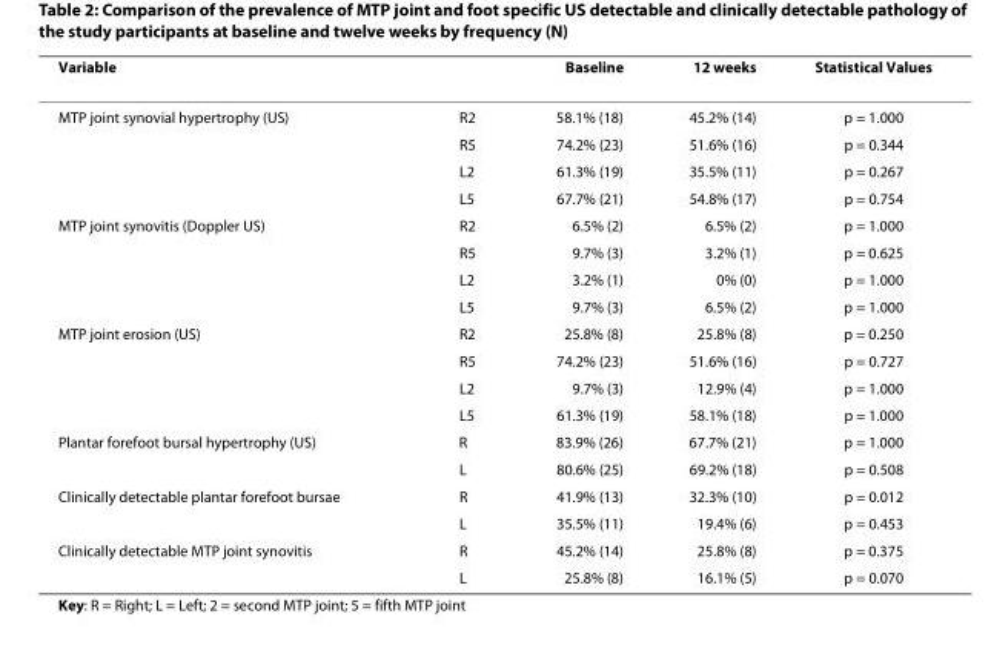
<table><thead><tr><td>Variable</td><td></td><td>Baseline</td><td>12 weeks</td><td>Statistical Values</td></tr></thead><tbody><tr><td rowspan="4">MTP joint synovial hypertrophy (US)</td><td>R2</td><td>58.1% (18)</td><td>45.2% (14)</td><td>p = 1.000</td></tr><tr><td>R5</td><td>74.2% (23)</td><td>51.6% (16)</td><td>p = 0.344</td></tr><tr><td>L2</td><td>61.3% (19)</td><td>35.5% (11)</td><td>p = 0.267</td></tr><tr><td>L5</td><td>67.7% (21)</td><td>54.8% (17)</td><td>p = 0.754</td></tr><tr><td rowspan="4">MTP joint synovitis (Doppler US)</td><td>R2</td><td>6.5% (2)</td><td>6.5% (2)</td><td>p = 1.000</td></tr><tr><td>R5</td><td>9.7% (3)</td><td>3.2% (1)</td><td>p = 0.625</td></tr><tr><td>L2</td><td>3.2% (1)</td><td>0% (0)</td><td>p = 1.000</td></tr><tr><td>L5</td><td>9.7% (3)</td><td>6.5% (2)</td><td>p = 1.000</td></tr><tr><td rowspan="4">MTP joint erosion (US)</td><td>R2</td><td>25.8% (8)</td><td>25.8% (8)</td><td>p = 0.250</td></tr><tr><td>R5</td><td>74.2% (23)</td><td>51.6% (16)</td><td>p = 0.727</td></tr><tr><td>L2</td><td>9.7% (3)</td><td>12.9% (4)</td><td>p = 1.000</td></tr><tr><td>L5</td><td>61.3% (19)</td><td>58.1% (18)</td><td>p = 1.000</td></tr><tr><td rowspan="2">Plantar forefoot bursal hypertrophy (US)</td><td>R</td><td>83.9% (26)</td><td>67.7% (21)</td><td>p = 1.000</td></tr><tr><td>L</td><td>80.6% (25)</td><td>69.2% (18)</td><td>p = 0.508</td></tr><tr><td rowspan="2">Clinically detectable plantar forefoot bursae</td><td>R</td><td>41.9% (13)</td><td>32.3% (10)</td><td>p = 0.012</td></tr><tr><td>L</td><td>35.5% (11)</td><td>19.4% (6)</td><td>p = 0.453</td></tr><tr><td rowspan="2">Clinically detectable MTP joint synovitis</td><td>R</td><td>45.2% (14)</td><td>25.8% (8)</td><td>p = 0.375</td></tr><tr><td>L</td><td>25.8% (8)</td><td>16.1% (5)</td><td>p = 0.070</td></tr></tbody></table>